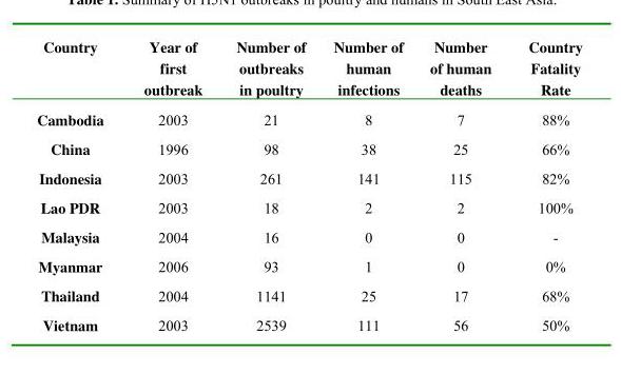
<table><thead><tr><td>Country</td><td>Year of first outbreak</td><td>Number of outbreaks in poultry</td><td>Number of human infections</td><td>Number of human deaths</td><td>Country Fatality Rate</td></tr></thead><tbody><tr><td>Cambodia</td><td>2003</td><td>21</td><td>8</td><td>7</td><td>88%</td></tr><tr><td>China</td><td>1996</td><td>98</td><td>38</td><td>25</td><td>66%</td></tr><tr><td>Indonesia</td><td>2003</td><td>261</td><td>141</td><td>115</td><td>82%</td></tr><tr><td>Lao PDR</td><td>2003</td><td>18</td><td>2</td><td>2</td><td>100%</td></tr><tr><td>Malaysia</td><td>2004</td><td>16</td><td>0</td><td>0</td><td>-</td></tr><tr><td>Myanmar</td><td>2006</td><td>93</td><td>1</td><td>0</td><td>0%</td></tr><tr><td>Thailand</td><td>2004</td><td>1141</td><td>25</td><td>17</td><td>68%</td></tr><tr><td>Vietnam</td><td>2003</td><td>2539</td><td>111</td><td>56</td><td>50%</td></tr></tbody></table>